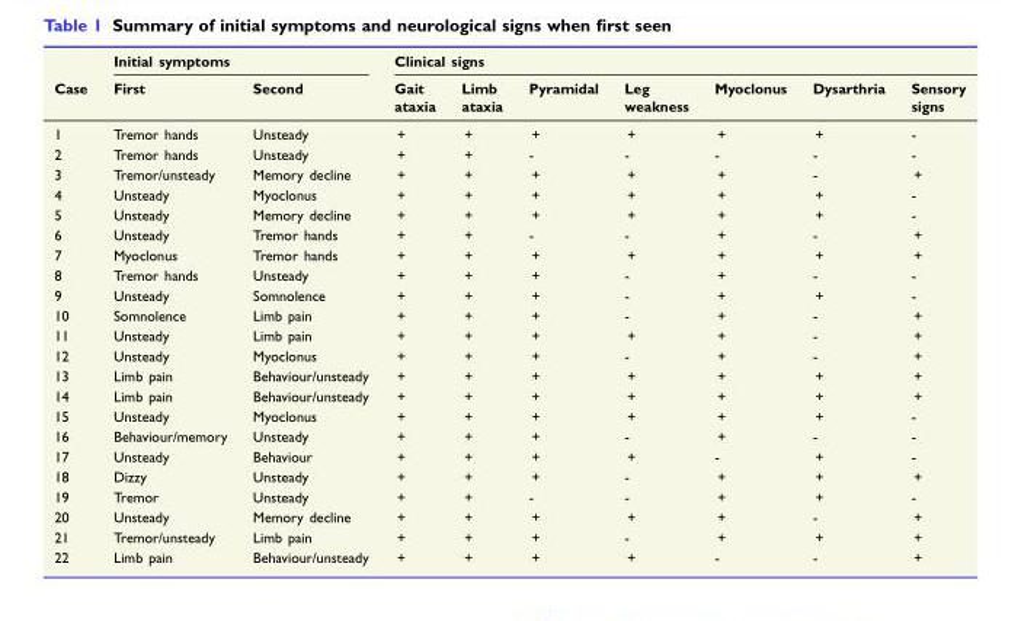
<table><thead><tr><td rowspan="2">Case</td><td colspan="2">Initial symptoms</td><td colspan="7">Clinical signs</td></tr><tr><td>First</td><td>Second</td><td>Gait ataxia</td><td>Limb ataxia</td><td>Pyramidal</td><td>Leg weakness</td><td>Myoclonus</td><td>Dysarthria</td><td>Sensory signs</td></tr></thead><tbody><tr><td>1</td><td>Tremor hands</td><td>Unsteady</td><td>+</td><td>+</td><td>+</td><td>+</td><td>+</td><td>+</td><td>-</td></tr><tr><td>2</td><td>Tremor hands</td><td>Unsteady</td><td>+</td><td>+</td><td>-</td><td>-</td><td>-</td><td>-</td><td>-</td></tr><tr><td>3</td><td>Tremor/unsteady</td><td>Memory decline</td><td>+</td><td>+</td><td>+</td><td>+</td><td>+</td><td>-</td><td>+</td></tr><tr><td>4</td><td>Unsteady</td><td>Myoclonus</td><td>+</td><td>+</td><td>+</td><td>+</td><td>+</td><td>+</td><td>-</td></tr><tr><td>5</td><td>Unsteady</td><td>Memory decline</td><td>+</td><td>+</td><td>+</td><td>+</td><td>+</td><td>+</td><td>-</td></tr><tr><td>6</td><td>Unsteady</td><td>Tremor hands</td><td>+</td><td>+</td><td>-</td><td>-</td><td>+</td><td>-</td><td>+</td></tr><tr><td>7</td><td>Myoclonus</td><td>Tremor hands</td><td>+</td><td>+</td><td>+</td><td>+</td><td>+</td><td>+</td><td>+</td></tr><tr><td>8</td><td>Tremor hands</td><td>Unsteady</td><td>+</td><td>+</td><td>+</td><td>-</td><td>+</td><td>-</td><td>-</td></tr><tr><td>9</td><td>Unsteady</td><td>Somnolence</td><td>+</td><td>+</td><td>+</td><td>-</td><td>+</td><td>+</td><td>-</td></tr><tr><td>10</td><td>Somnolence</td><td>Limb pain</td><td>+</td><td>+</td><td>+</td><td>-</td><td>+</td><td>-</td><td>+</td></tr><tr><td>11</td><td>Unsteady</td><td>Limb pain</td><td>+</td><td>+</td><td>+</td><td>+</td><td>+</td><td>-</td><td>+</td></tr><tr><td>12</td><td>Unsteady</td><td>Myoclonus</td><td>+</td><td>+</td><td>+</td><td>-</td><td>+</td><td>-</td><td>+</td></tr><tr><td>13</td><td>Limb pain</td><td>Behaviour/unsteady</td><td>+</td><td>+</td><td>+</td><td>+</td><td>+</td><td>+</td><td>+</td></tr><tr><td>14</td><td>Limb pain</td><td>Behaviour/unsteady</td><td>+</td><td>+</td><td>+</td><td>+</td><td>+</td><td>+</td><td>+</td></tr><tr><td>15</td><td>Unsteady</td><td>Myoclonus</td><td>+</td><td>+</td><td>+</td><td>+</td><td>+</td><td>+</td><td>-</td></tr><tr><td>16</td><td>Behaviour/memory</td><td>Unsteady</td><td>+</td><td>+</td><td>+</td><td>-</td><td>+</td><td>-</td><td>-</td></tr><tr><td>17</td><td>Unsteady</td><td>Behaviour</td><td>+</td><td>+</td><td>+</td><td>+</td><td>-</td><td>+</td><td>-</td></tr><tr><td>18</td><td>Dizzy</td><td>Unsteady</td><td>+</td><td>+</td><td>+</td><td>-</td><td>+</td><td>+</td><td>+</td></tr><tr><td>19</td><td>Tremor</td><td>Unsteady</td><td>+</td><td>+</td><td>-</td><td>-</td><td>+</td><td>+</td><td>-</td></tr><tr><td>20</td><td>Unsteady</td><td>Memory decline</td><td>+</td><td>+</td><td>+</td><td>+</td><td>+</td><td>-</td><td>+</td></tr><tr><td>21</td><td>Tremor/unsteady</td><td>Limb pain</td><td>+</td><td>+</td><td>+</td><td>-</td><td>+</td><td>+</td><td>+</td></tr><tr><td>22</td><td>Limb pain</td><td>Behaviour/unsteady</td><td>+</td><td>+</td><td>+</td><td>+</td><td>-</td><td>-</td><td>+</td></tr></tbody></table>